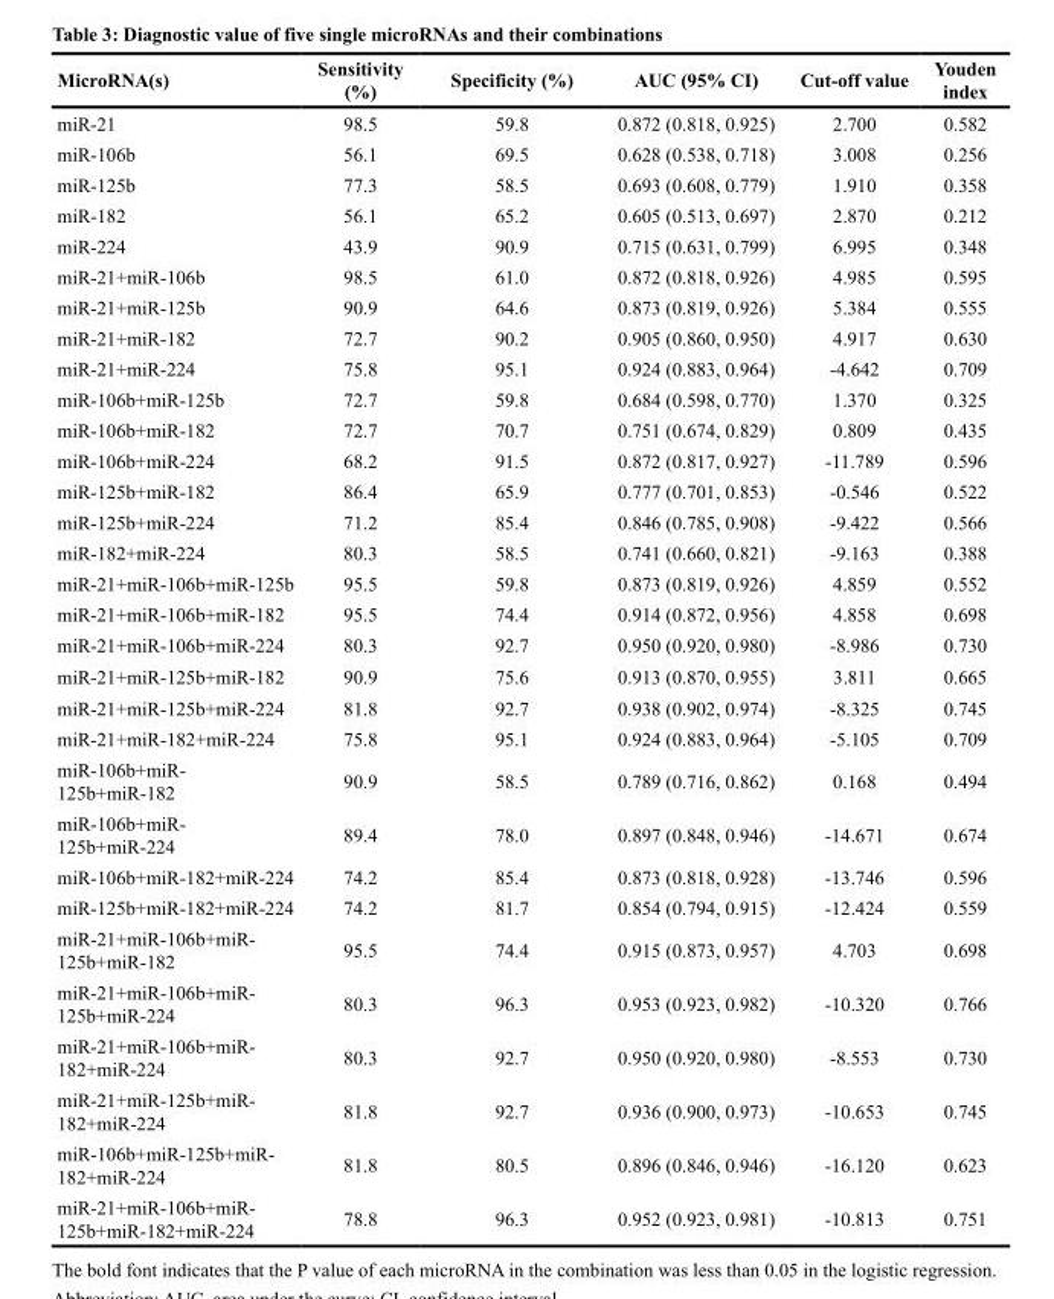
<table><thead><tr><td>MicroRNA(s)</td><td>Sensitivity (%)</td><td>Specificity (%)</td><td>AUC (95% CI)</td><td>Cut-off value</td><td>Youden index</td></tr></thead><tbody><tr><td>miR-21</td><td>98.5</td><td>59.8</td><td>0.872 (0.818, 0.925)</td><td>2.700</td><td>0.582</td></tr><tr><td>miR-106b</td><td>56.1</td><td>69.5</td><td>0.628 (0.538, 0.718)</td><td>3.008</td><td>0.256</td></tr><tr><td>miR-125b</td><td>77.3</td><td>58.5</td><td>0.693 (0.608, 0.779)</td><td>1.910</td><td>0.358</td></tr><tr><td>miR-182</td><td>56.1</td><td>65.2</td><td>0.605 (0.513, 0.697)</td><td>2.870</td><td>0.212</td></tr><tr><td>miR-224</td><td>43.9</td><td>90.9</td><td>0.715 (0.631, 0.799)</td><td>6.995</td><td>0.348</td></tr><tr><td>miR-21+miR-106b</td><td>98.5</td><td>61.0</td><td>0.872 (0.818, 0.926)</td><td>4.985</td><td>0.595</td></tr><tr><td>miR-21+miR-125b</td><td>90.9</td><td>64.6</td><td>0.873 (0.819, 0.926)</td><td>5.384</td><td>0.555</td></tr><tr><td>miR-21+miR-182</td><td>72.7</td><td>90.2</td><td>0.905 (0.860, 0.950)</td><td>4.917</td><td>0.630</td></tr><tr><td>miR-21+miR-224</td><td>75.8</td><td>95.1</td><td>0.924 (0.883, 0.964)</td><td>-4.642</td><td>0.709</td></tr><tr><td>miR-106b+miR-125b</td><td>72.7</td><td>59.8</td><td>0.684 (0.598, 0.770)</td><td>1.370</td><td>0.325</td></tr><tr><td>miR-106b+miR-182</td><td>72.7</td><td>70.7</td><td>0.751 (0.674, 0.829)</td><td>0.809</td><td>0.435</td></tr><tr><td>miR-106b+miR-224</td><td>68.2</td><td>91.5</td><td>0.872 (0.817, 0.927)</td><td>-11.789</td><td>0.596</td></tr><tr><td>miR-125b+miR-182</td><td>86.4</td><td>65.9</td><td>0.777 (0.701, 0.853)</td><td>-0.546</td><td>0.522</td></tr><tr><td>miR-125b+miR-224</td><td>71.2</td><td>85.4</td><td>0.846 (0.785, 0.908)</td><td>-9.422</td><td>0.566</td></tr><tr><td>miR-182+miR-224</td><td>80.3</td><td>58.5</td><td>0.741 (0.660, 0.821)</td><td>-9.163</td><td>0.388</td></tr><tr><td>miR-21+miR-106b+miR-125b</td><td>95.5</td><td>59.8</td><td>0.873 (0.819, 0.926)</td><td>4.859</td><td>0.552</td></tr><tr><td>miR-21+miR-106b+miR-182</td><td>95.5</td><td>74.4</td><td>0.914 (0.872, 0.956)</td><td>4.858</td><td>0.698</td></tr><tr><td>miR-21+miR-106b+miR-224</td><td>80.3</td><td>92.7</td><td>0.950 (0.920, 0.980)</td><td>-8.986</td><td>0.730</td></tr><tr><td>miR-21+miR-125b+miR-182</td><td>90.9</td><td>75.6</td><td>0.913 (0.870, 0.955)</td><td>3.811</td><td>0.665</td></tr><tr><td>miR-21+miR-125b+miR-224</td><td>81.8</td><td>92.7</td><td>0.938 (0.902, 0.974)</td><td>-8.325</td><td>0.745</td></tr><tr><td>miR-21+miR-182+miR-224</td><td>75.8</td><td>95.1</td><td>0.924 (0.883, 0.964)</td><td>-5.105</td><td>0.709</td></tr><tr><td>miR-106b+miR- 125b+miR-182</td><td>90.9</td><td>58.5</td><td>0.789 (0.716, 0.862)</td><td>0.168</td><td>0.494</td></tr><tr><td>miR-106b+miR- 125b+miR-224</td><td>89.4</td><td>78.0</td><td>0.897 (0.848, 0.946)</td><td>-14.671</td><td>0.674</td></tr><tr><td>miR-106b+miR-182+miR-224</td><td>74.2</td><td>85.4</td><td>0.873 (0.818, 0.928)</td><td>-13.746</td><td>0.596</td></tr><tr><td>miR-125b+miR-182+miR-224</td><td>74.2</td><td>81.7</td><td>0.854 (0.794, 0.915)</td><td>-12.424</td><td>0.559</td></tr><tr><td>miR-21+miR-106b+miR- 125b+miR-182</td><td>95.5</td><td>74.4</td><td>0.915 (0.873, 0.957)</td><td>4.703</td><td>0.698</td></tr><tr><td>miR-21+miR-106b+miR- 125b+miR-224</td><td>80.3</td><td>96.3</td><td>0.953 (0.923, 0.982)</td><td>-10.320</td><td>0.766</td></tr><tr><td>miR-21+miR-106b+miR- 182+miR-224</td><td>80.3</td><td>92.7</td><td>0.950 (0.920, 0.980)</td><td>-8.553</td><td>0.730</td></tr><tr><td>miR-21+miR-125b+miR- 182+miR-224</td><td>81.8</td><td>92.7</td><td>0.936 (0.900, 0.973)</td><td>-10.653</td><td>0.745</td></tr><tr><td>miR-106b+miR-125b+miR- 182+miR-224</td><td>81.8</td><td>80.5</td><td>0.896 (0.846, 0.946)</td><td>-16.120</td><td>0.623</td></tr><tr><td>miR-21+miR-106b+miR- 125b+miR-182+miR-224</td><td>78.8</td><td>96.3</td><td>0.952 (0.923, 0.981)</td><td>-10.813</td><td>0.751</td></tr></tbody></table>